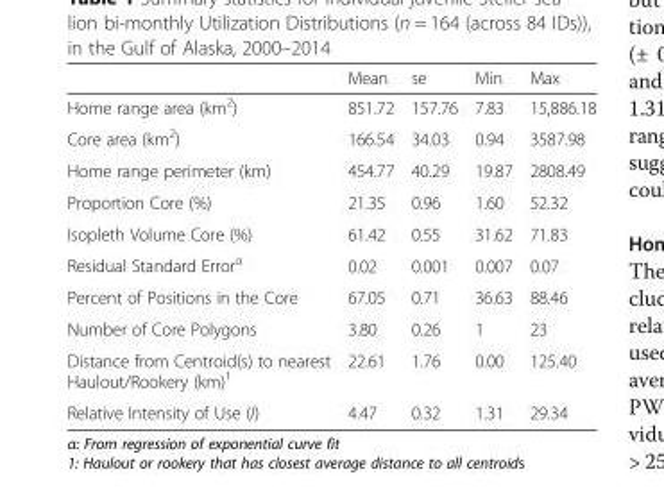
<table><thead><tr><td></td><td>Mean</td><td>se</td><td>Min</td><td>Max</td></tr></thead><tbody><tr><td>Home range area (km<sup>2</sup>)</td><td>851.72</td><td>157.76</td><td>7.83</td><td>15,886.18</td></tr><tr><td>Core area (km<sup>2</sup>)</td><td>166.54</td><td>34.03</td><td>0.94</td><td>3587.98</td></tr><tr><td>Home range perimeter (km)</td><td>454.77</td><td>40.29</td><td>19.87</td><td>2808.49</td></tr><tr><td>Proportion Core (%)</td><td>21.35</td><td>0.96</td><td>1.60</td><td>52.32</td></tr><tr><td>Isopleth Volume Core (%)</td><td>61.42</td><td>0.55</td><td>31.62</td><td>71.83</td></tr><tr><td>Residual Standard Error<sup>α</sup></td><td>0.02</td><td>0.001</td><td>0.007</td><td>0.07</td></tr><tr><td>Percent of Positions in the Core</td><td>67.05</td><td>0.71</td><td>36.63</td><td>88.46</td></tr><tr><td>Number of Core Polygons</td><td>3.80</td><td>0.26</td><td>1</td><td>23</td></tr><tr><td>Distance from Centroid(s) to nearest Haulout/Rookery (km)<sup>1</sup></td><td>22.61</td><td>1.76</td><td>0.00</td><td>125.40</td></tr><tr><td>Relative Intensity of Use (I)</td><td>4.47</td><td>0.32</td><td>1.31</td><td>29.34</td></tr></tbody></table>